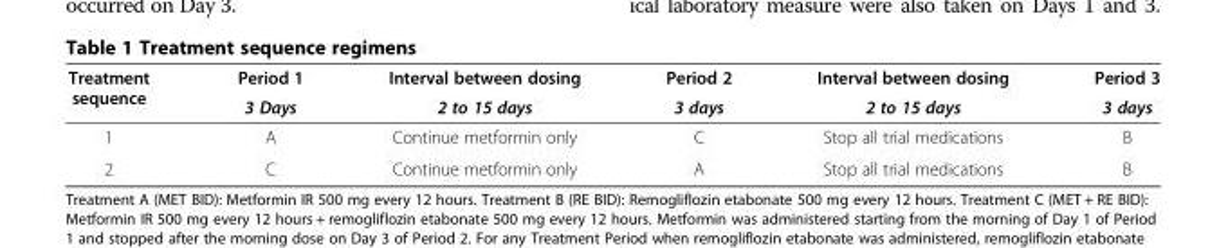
<table><thead><tr><td rowspan="2">Treatment sequence</td><td rowspan="2">Period 1 3 Days</td><td rowspan="2">Interval between dosing 2 to 15 days</td><td rowspan="2">Period 2 3 days</td><td rowspan="2">Interval between dosing 2 to 15 days</td><td rowspan="2">Period 3 3 days</td></tr><tr></tr></thead><tbody><tr><td>1</td><td>A</td><td>Continue metformin only</td><td>C</td><td>Stop all trial medications</td><td>B</td></tr><tr><td>2</td><td>C</td><td>Continue metformin only</td><td>A</td><td>Stop all trial medications</td><td>B</td></tr></tbody></table>